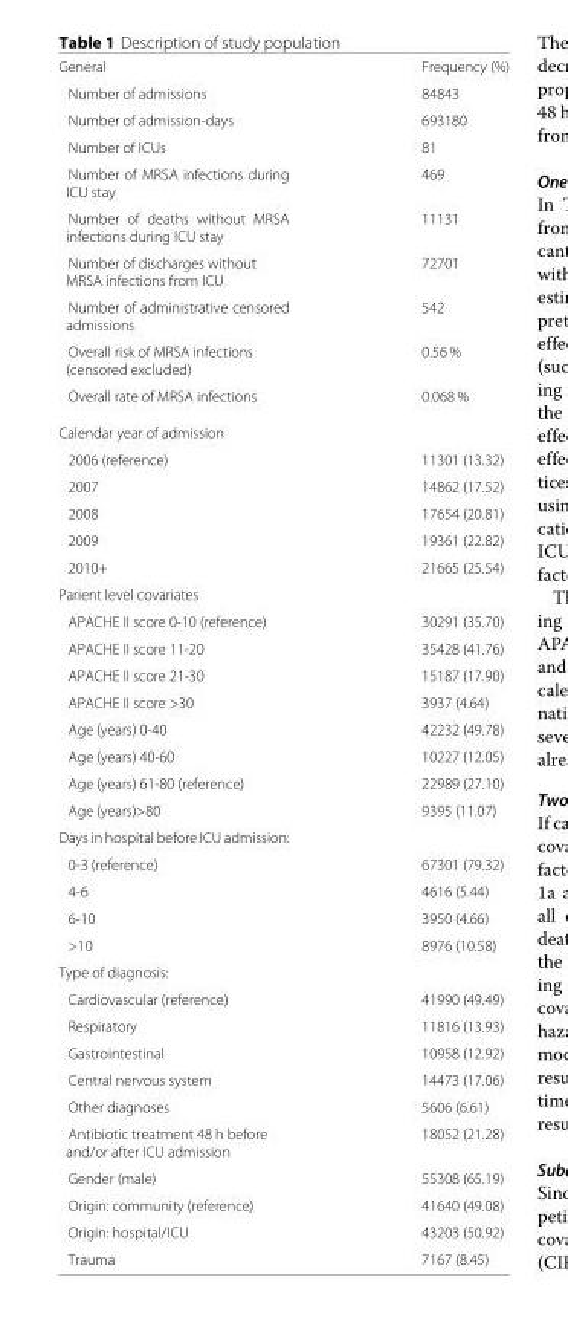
<table><tbody><tr><td>General</td><td>Frequency (%)</td></tr><tr><td>Number of admissions</td><td>84843</td></tr><tr><td>Number of admission-days</td><td>693180</td></tr><tr><td>Number of ICUs</td><td>81</td></tr><tr><td>Number of MRSA infections during ICU stay</td><td>469</td></tr><tr><td>Number of deaths without MRSA infections during ICU stay</td><td>11131</td></tr><tr><td>Number of discharges without MRSA infections from ICU</td><td>72701</td></tr><tr><td>Number of administrative censored admissions</td><td>542</td></tr><tr><td>Overall risk of MRSA infections (censored excluded)</td><td>0.56 %</td></tr><tr><td>Overall rate of MRSA infections</td><td>0.068 %</td></tr><tr><td colspan="2">Calendar year of admission</td></tr><tr><td>2006 (reference)</td><td>11301 (13.32)</td></tr><tr><td>2007</td><td>14862 (17.52)</td></tr><tr><td>2008</td><td>17654 (20.81)</td></tr><tr><td>2009</td><td>19361 (22.82)</td></tr><tr><td>2010+</td><td>21665 (25.54)</td></tr><tr><td colspan="2">Parient level covariates</td></tr><tr><td>APACHE II score 0-10 (reference)</td><td>30291 (35.70)</td></tr><tr><td>APACHE II score 11-20</td><td>35428 (41.76)</td></tr><tr><td>APACHE II score 21-30</td><td>15187 (17.90)</td></tr><tr><td>APACHE II score &gt;30</td><td>3937 (4.64)</td></tr><tr><td>Age (years) 0-40</td><td>42232 (49.78)</td></tr><tr><td>Age (years) 40-60</td><td>10227 (12.05)</td></tr><tr><td>Age (years) 61-80 (reference)</td><td>22989 (27.10)</td></tr><tr><td>Age (years)&gt;80</td><td>9395 (11.07)</td></tr><tr><td colspan="2">Days in hospital before ICU admission:</td></tr><tr><td>0-3 (reference)</td><td>67301 (79.32)</td></tr><tr><td>4-6</td><td>4616 (5.44)</td></tr><tr><td>6-10</td><td>3950 (4.66)</td></tr><tr><td>&gt;10</td><td>8976 (10.58)</td></tr><tr><td colspan="2">Type of diagnosis:</td></tr><tr><td>Cardiovascular (reference)</td><td>41990 (49.49)</td></tr><tr><td>Respiratory</td><td>11816 (13.93)</td></tr><tr><td>Gastrointestinal</td><td>10958 (12.92)</td></tr><tr><td>Central nervous system</td><td>14473 (17.06)</td></tr><tr><td>Other diagnoses</td><td>5606 (6.61)</td></tr><tr><td>Antibiotic treatment 48 h before and/or after ICU admission</td><td>18052 (21.28)</td></tr><tr><td>Gender (male)</td><td>55308 (65.19)</td></tr><tr><td>Origin: community (reference)</td><td>41640 (49.08)</td></tr><tr><td>Origin: hospital/ICU</td><td>43203 (50.92)</td></tr><tr><td>Trauma</td><td>7167 (8.45)</td></tr></tbody></table>